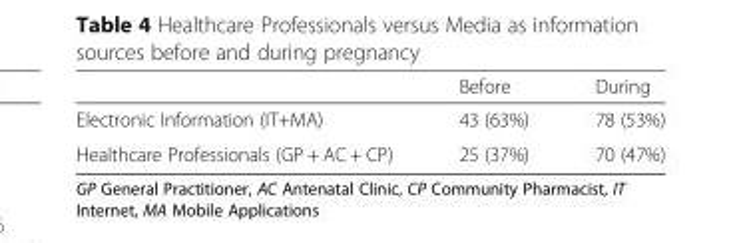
<table><thead><tr><td></td><td>Before</td><td>During</td></tr></thead><tbody><tr><td>Electronic Information (IT+MA)</td><td>43 (63%)</td><td>78 (53%)</td></tr><tr><td>Healthcare Professionals (GP + AC + CP)</td><td>25 (37%)</td><td>70 (47%)</td></tr></tbody></table>